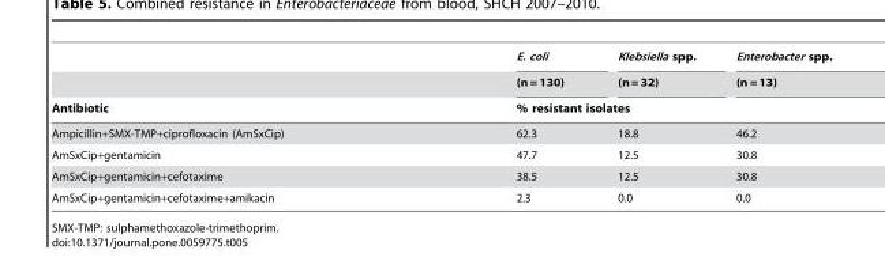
<table><thead><tr><td rowspan="3">Antibiotic</td><td rowspan="2">E. coli (n = 130)</td><td rowspan="2">Klebsiella spp. (n = 32)</td><td rowspan="2">Enterobacter spp. (n = 13)</td></tr><tr></tr><tr><td colspan="3">% resistant isolates</td></tr></thead><tbody><tr><td>Ampicillin+SMX-TMP+ciprofloxacin (AmSxCip)</td><td>62.3</td><td>18.8</td><td>46.2</td></tr><tr><td>AmSxCip+gentamicin</td><td>47.7</td><td>12.5</td><td>30.8</td></tr><tr><td>AmSxCip+gentamicin+cefotaxime</td><td>38.5</td><td>12.5</td><td>30.8</td></tr><tr><td>AmSxCip+gentamicin+cefotaxime+amikacin</td><td>2.3</td><td>0.0</td><td>0.0</td></tr></tbody></table>